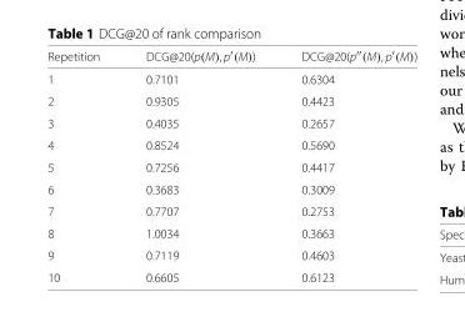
<table><thead><tr><td>Repetition</td><td>DCG@20(p(M), p<sup>′</sup>(M))</td><td>DCG@20(p<sup>′′</sup>(M), p<sup>′</sup>(M))</td></tr></thead><tbody><tr><td>1</td><td>0.7101</td><td>0.6304</td></tr><tr><td>2</td><td>0.9305</td><td>0.4423</td></tr><tr><td>3</td><td>0.4035</td><td>0.2657</td></tr><tr><td>4</td><td>0.8524</td><td>0.5690</td></tr><tr><td>5</td><td>0.7256</td><td>0.4417</td></tr><tr><td>6</td><td>0.3683</td><td>0.3009</td></tr><tr><td>7</td><td>0.7707</td><td>0.2753</td></tr><tr><td>8</td><td>1.0034</td><td>0.3663</td></tr><tr><td>9</td><td>0.7119</td><td>0.4603</td></tr><tr><td>10</td><td>0.6605</td><td>0.6123</td></tr></tbody></table>